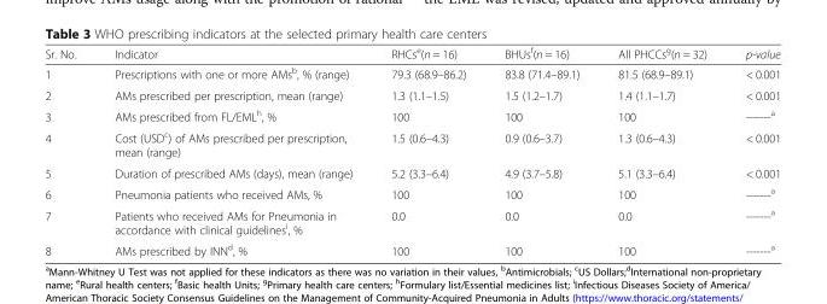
<table><thead><tr><td>Sr. No.</td><td>Indicator</td><td>RHCs<sup>e</sup>(n = 16)</td><td>BHUs<sup>f</sup>(n = 16)</td><td>All PHCCs<sup>g</sup>(n = 32)</td><td>p-value</td></tr></thead><tbody><tr><td>1</td><td>Prescriptions with one or more AMs<sup>b</sup>, % (range)</td><td>79.3 (68.9–86.2)</td><td>83.8 (71.4–89.1)</td><td>81.5 (68.9–89.1)</td><td>&lt; 0.001</td></tr><tr><td>2</td><td>AMs prescribed per prescription, mean (range)</td><td>1.3 (1.1–1.5)</td><td>1.5 (1.2–1.7)</td><td>1.4 (1.1–1.7)</td><td>&lt; 0.001</td></tr><tr><td>3</td><td>AMs prescribed from FL/EML<sup>h</sup>, %</td><td>100</td><td>100</td><td>100</td><td>-------<sup>a</sup></td></tr><tr><td>4</td><td>Cost (USD<sup>c</sup>) of AMs prescribed per prescription, mean (range)</td><td>1.5 (0.6–4.3)</td><td>0.9 (0.6–3.7)</td><td>1.3 (0.6–4.3)</td><td>&lt; 0.001</td></tr><tr><td>5</td><td>Duration of prescribed AMs (days), mean (range)</td><td>5.2 (3.3–6.4)</td><td>4.9 (3.7–5.8)</td><td>5.1 (3.3–6.4)</td><td>&lt; 0.001</td></tr><tr><td>6</td><td>Pneumonia patients who received AMs, %</td><td>100</td><td>100</td><td>100</td><td>-------<sup>a</sup></td></tr><tr><td>7</td><td>Patients who received AMs for Pneumonia in accordance with clinical guidelines<sup>i</sup>, %</td><td>0.0</td><td>0.0</td><td>0.0</td><td>-------<sup>a</sup></td></tr><tr><td>8</td><td>AMs prescribed by INN<sup>d</sup>, %</td><td>100</td><td>100</td><td>100</td><td>-------<sup>a</sup></td></tr></tbody></table>